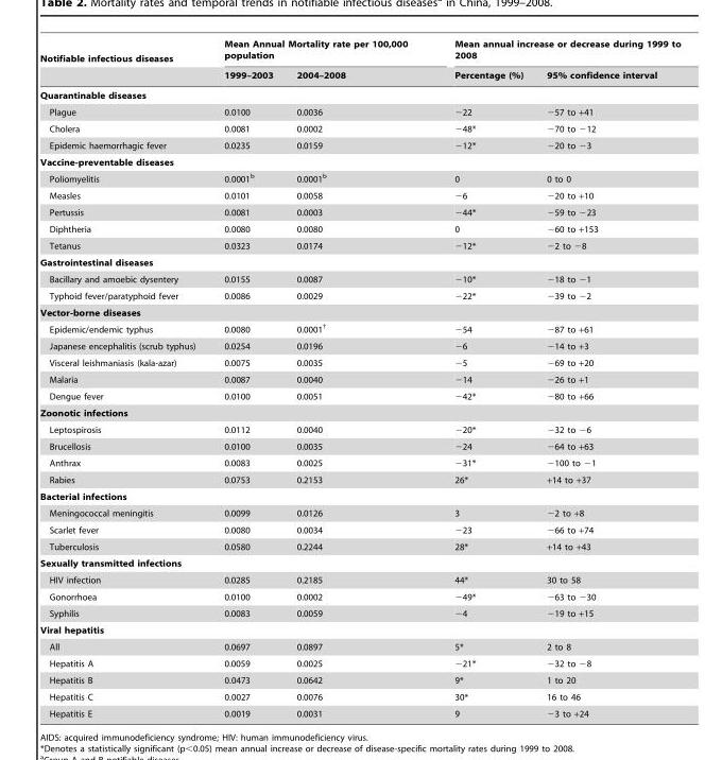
<table><thead><tr><td rowspan="2">Notifiable infectious diseases</td><td colspan="2">Mean Annual Mortality rate per 100,000 population</td><td colspan="2">Mean annual increase or decrease during 1999 to 2008</td></tr><tr><td>1999–2003</td><td>2004–2008</td><td>Percentage (%)</td><td>95% confidence interval</td></tr></thead><tbody><tr><td colspan="5">Quarantinable diseases</td></tr><tr><td>Plague</td><td>0.0100</td><td>0.0036</td><td>−22</td><td>−57 to +41</td></tr><tr><td>Cholera</td><td>0.0081</td><td>0.0002</td><td>−48*</td><td>−70 to −12</td></tr><tr><td>Epidemic haemorrhagic fever</td><td>0.0235</td><td>0.0159</td><td>−12*</td><td>−20 to −3</td></tr><tr><td colspan="5">Vaccine-preventable diseases</td></tr><tr><td>Poliomyelitis</td><td>0.0001<sup>b</sup></td><td>0.0001<sup>b</sup></td><td>0</td><td>0 to 0</td></tr><tr><td>Measles</td><td>0.0101</td><td>0.0058</td><td>−6</td><td>−20 to +10</td></tr><tr><td>Pertussis</td><td>0.0081</td><td>0.0003</td><td>−44*</td><td>−59 to −23</td></tr><tr><td>Diphtheria</td><td>0.0080</td><td>0.0080</td><td>0</td><td>−60 to +153</td></tr><tr><td>Tetanus</td><td>0.0323</td><td>0.0174</td><td>−12*</td><td>−2 to −8</td></tr><tr><td colspan="5">Gastrointestinal diseases</td></tr><tr><td>Bacillary and amoebic dysentery</td><td>0.0155</td><td>0.0087</td><td>−10*</td><td>−18 to −1</td></tr><tr><td>Typhoid fever/paratyphoid fever</td><td>0.0086</td><td>0.0029</td><td>−22*</td><td>−39 to −2</td></tr><tr><td colspan="5">Vector-borne diseases</td></tr><tr><td>Epidemic/endemic typhus</td><td>0.0080</td><td>0.0001<sup>†</sup></td><td>−54</td><td>−87 to +61</td></tr><tr><td>Japanese encephalitis (scrub typhus)</td><td>0.0254</td><td>0.0196</td><td>−6</td><td>−14 to +3</td></tr><tr><td>Visceral leishmaniasis (kala-azar)</td><td>0.0075</td><td>0.0035</td><td>−5</td><td>−69 to +20</td></tr><tr><td>Malaria</td><td>0.0087</td><td>0.0040</td><td>−14</td><td>−26 to +1</td></tr><tr><td>Dengue fever</td><td>0.0100</td><td>0.0051</td><td>−42*</td><td>−80 to +66</td></tr><tr><td colspan="5">Zoonotic infections</td></tr><tr><td>Leptospirosis</td><td>0.0112</td><td>0.0040</td><td>−20*</td><td>−32 to −6</td></tr><tr><td>Brucellosis</td><td>0.0100</td><td>0.0035</td><td>−24</td><td>−64 to +63</td></tr><tr><td>Anthrax</td><td>0.0083</td><td>0.0025</td><td>−31*</td><td>−100 to −1</td></tr><tr><td>Rabies</td><td>0.0753</td><td>0.2153</td><td>26*</td><td>+14 to +37</td></tr><tr><td colspan="5">Bacterial infections</td></tr><tr><td>Meningococcal meningitis</td><td>0.0099</td><td>0.0126</td><td>3</td><td>−2 to +8</td></tr><tr><td>Scarlet fever</td><td>0.0080</td><td>0.0034</td><td>−23</td><td>−66 to +74</td></tr><tr><td>Tuberculosis</td><td>0.0580</td><td>0.2244</td><td>28*</td><td>+14 to +43</td></tr><tr><td colspan="5">Sexually transmitted infections</td></tr><tr><td>HIV infection</td><td>0.0285</td><td>0.2185</td><td>44*</td><td>30 to 58</td></tr><tr><td>Gonorrhoea</td><td>0.0100</td><td>0.0002</td><td>−49*</td><td>−63 to −30</td></tr><tr><td>Syphilis</td><td>0.0083</td><td>0.0059</td><td>−4</td><td>−19 to +15</td></tr><tr><td colspan="5">Viral hepatitis</td></tr><tr><td>All</td><td>0.0697</td><td>0.0897</td><td>5*</td><td>2 to 8</td></tr><tr><td>Hepatitis A</td><td>0.0059</td><td>0.0025</td><td>−21*</td><td>−32 to −8</td></tr><tr><td>Hepatitis B</td><td>0.0473</td><td>0.0642</td><td>9*</td><td>1 to 20</td></tr><tr><td>Hepatitis C</td><td>0.0027</td><td>0.0076</td><td>30*</td><td>16 to 46</td></tr><tr><td>Hepatitis E</td><td>0.0019</td><td>0.0031</td><td>9</td><td>−3 to +24</td></tr></tbody></table>